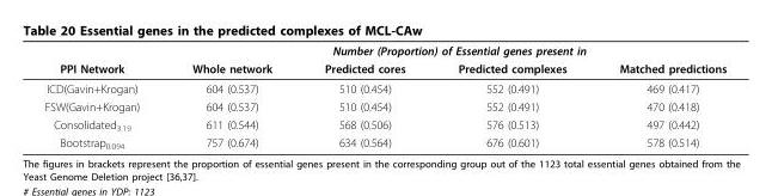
<table><thead><tr><td rowspan="2">PPI Network</td><td colspan="4">Number (Proportion) of Essential genes present in</td></tr><tr><td>Whole network</td><td>Predicted cores</td><td>Predicted complexes</td><td>Matched predictions</td></tr></thead><tbody><tr><td>ICD(Gavin+Krogan)</td><td>604 (0.537)</td><td>510 (0.454)</td><td>552 (0.491)</td><td>469 (0.417)</td></tr><tr><td>FSW(Gavin+Krogan)</td><td>604 (0.537)</td><td>510 (0.454)</td><td>552 (0.491)</td><td>470 (0.418)</td></tr><tr><td>Consolidated<sub>3.19</sub></td><td>611 (0.544)</td><td>568 (0.506)</td><td>576 (0.513)</td><td>497 (0.442)</td></tr><tr><td>Bootstrap<sub>0.094</sub></td><td>757 (0.674)</td><td>634 (0.564)</td><td>676 (0.601)</td><td>578 (0.514)</td></tr></tbody></table>